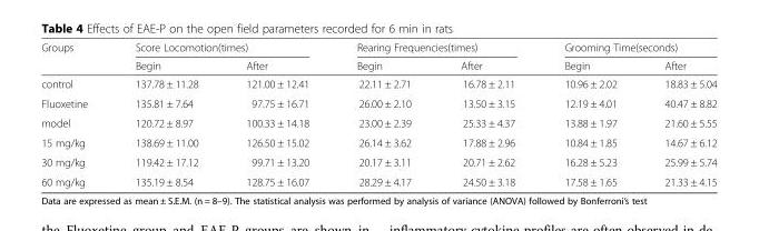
<table><thead><tr><td rowspan="2">Groups</td><td colspan="2">Score Locomotion(times)</td><td colspan="2">Rearing Frequencies(times)</td><td colspan="2">Grooming Time(seconds)</td></tr><tr><td>Begin</td><td>After</td><td>Begin</td><td>After</td><td>Begin</td><td>After</td></tr></thead><tbody><tr><td>control</td><td>137.78 ± 11.28</td><td>121.00 ± 12.41</td><td>22.11 ± 2.71</td><td>16.78 ± 2.11</td><td>10.96 ± 2.02</td><td>18.83 ± 5.04</td></tr><tr><td>Fluoxetine</td><td>135.81 ± 7.64</td><td>97.75 ± 16.71</td><td>26.00 ± 2.10</td><td>13.50 ± 3.15</td><td>12.19 ± 4.01</td><td>40.47 ± 8.82</td></tr><tr><td>model</td><td>120.72 ± 8.97</td><td>100.33 ± 14.18</td><td>23.00 ± 2.39</td><td>25.33 ± 4.37</td><td>13.88 ± 1.97</td><td>21.60 ± 5.55</td></tr><tr><td>15 mg/kg</td><td>138.69 ± 11.00</td><td>126.50 ± 15.02</td><td>26.14 ± 3.62</td><td>17.88 ± 2.96</td><td>10.84 ± 1.85</td><td>14.67 ± 6.12</td></tr><tr><td>30 mg/kg</td><td>119.42 ± 17.12</td><td>99.71 ± 13.20</td><td>20.17 ± 3.11</td><td>20.71 ± 2.62</td><td>16.28 ± 5.23</td><td>25.99 ± 5.74</td></tr><tr><td>60 mg/kg</td><td>135.19 ± 8.54</td><td>128.75 ± 16.07</td><td>28.29 ± 4.17</td><td>24.50 ± 3.18</td><td>17.58 ± 1.65</td><td>21.33 ± 4.15</td></tr></tbody></table>